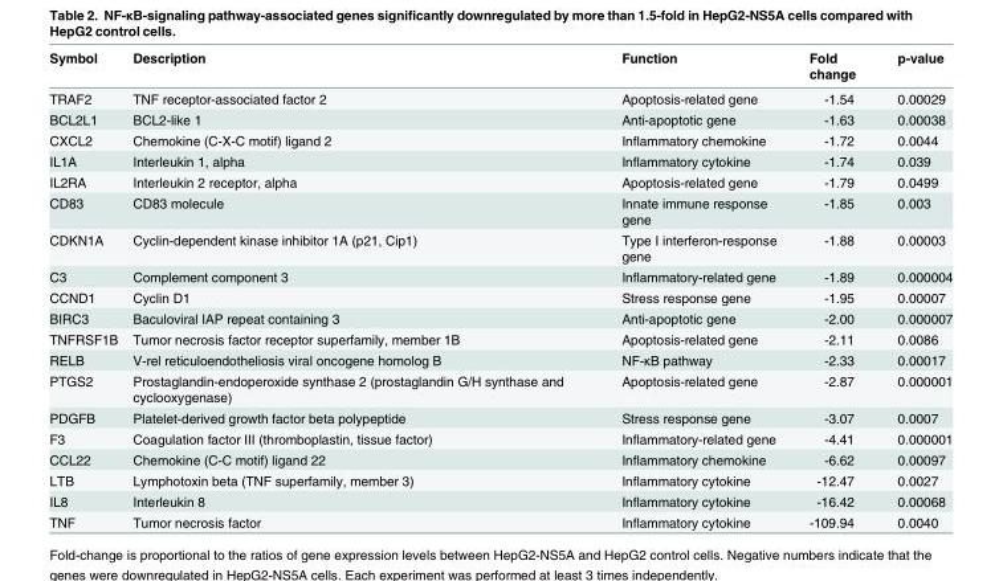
<table><thead><tr><td>Symbol</td><td>Description</td><td>Function</td><td>Fold change</td><td>p-value</td></tr></thead><tbody><tr><td>TRAF2</td><td>TNF receptor-associated factor 2</td><td>Apoptosis-related gene</td><td>-1.54</td><td>0.00029</td></tr><tr><td>BCL2L1</td><td>BCL2-like 1</td><td>Anti-apoptotic gene</td><td>-1.63</td><td>0.00038</td></tr><tr><td>CXCL2</td><td>Chemokine (C-X-C motif) ligand 2</td><td>Inflammatory chemokine</td><td>-1.72</td><td>0.0044</td></tr><tr><td>IL1A</td><td>Interleukin 1, alpha</td><td>Inflammatory cytokine</td><td>-1.74</td><td>0.039</td></tr><tr><td>IL2RA</td><td>Interleukin 2 receptor, alpha</td><td>Apoptosis-related gene</td><td>-1.79</td><td>0.0499</td></tr><tr><td>CD83</td><td>CD83 molecule</td><td>Innate immune response gene</td><td>-1.85</td><td>0.003</td></tr><tr><td>CDKN1A</td><td>Cyclin-dependent kinase inhibitor 1A (p21, Cip1)</td><td>Type I interferon-response gene</td><td>-1.88</td><td>0.00003</td></tr><tr><td>C3</td><td>Complement component 3</td><td>Inflammatory-related gene</td><td>-1.89</td><td>0.000004</td></tr><tr><td>CCND1</td><td>Cyclin D1</td><td>Stress response gene</td><td>-1.95</td><td>0.00007</td></tr><tr><td>BIRC3</td><td>Baculoviral IAP repeat containing 3</td><td>Anti-apoptotic gene</td><td>-2.00</td><td>0.000007</td></tr><tr><td>TNFRSF1B</td><td>Tumor necrosis factor receptor superfamily, member 1B</td><td>Apoptosis-related gene</td><td>-2.11</td><td>0.0086</td></tr><tr><td>RELB</td><td>V-rel reticuloendotheliosis viral oncogene homolog B</td><td>NF-κB pathway</td><td>-2.33</td><td>0.00017</td></tr><tr><td>PTGS2</td><td>Prostaglandin-endoperoxide synthase 2 (prostaglandin G/H synthase and cyclooxygenase)</td><td>Apoptosis-related gene</td><td>-2.87</td><td>0.000001</td></tr><tr><td>PDGFB</td><td>Platelet-derived growth factor beta polypeptide</td><td>Stress response gene</td><td>-3.07</td><td>0.0007</td></tr><tr><td>F3</td><td>Coagulation factor III (thromboplastin, tissue factor)</td><td>Inflammatory-related gene</td><td>-4.41</td><td>0.000001</td></tr><tr><td>CCL22</td><td>Chemokine (C-C motif) ligand 22</td><td>Inflammatory chemokine</td><td>-6.62</td><td>0.00097</td></tr><tr><td>LTB</td><td>Lymphotoxin beta (TNF superfamily, member 3)</td><td>Inflammatory cytokine</td><td>-12.47</td><td>0.0027</td></tr><tr><td>IL8</td><td>Interleukin 8</td><td>Inflammatory cytokine</td><td>-16.42</td><td>0.00068</td></tr><tr><td>TNF</td><td>Tumor necrosis factor</td><td>Inflammatory cytokine</td><td>-109.94</td><td>0.0040</td></tr></tbody></table>